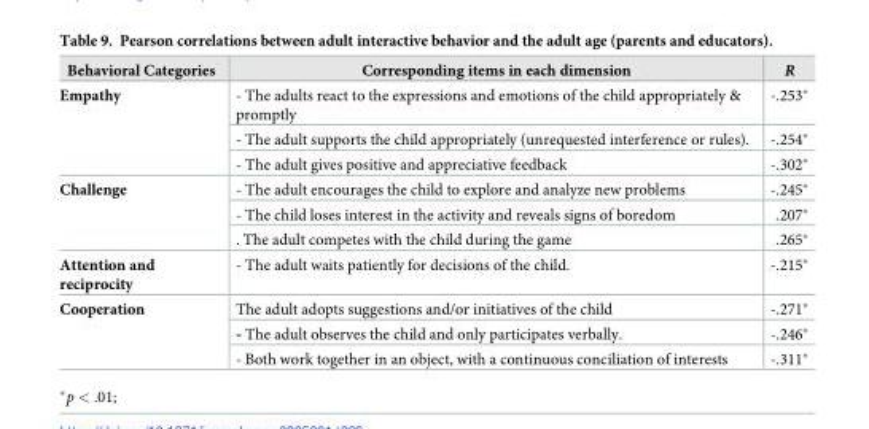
<table><thead><tr><td>Behavioral Categories</td><td>Corresponding items in each dimension</td><td>R</td></tr></thead><tbody><tr><td rowspan="3">Empathy</td><td>- The adults react to the expressions and emotions of the child appropriately &amp; promptly</td><td>-.253*</td></tr><tr><td>- The adult supports the child appropriately (unrequested interference or rules).</td><td>-.254*</td></tr><tr><td>- The adult gives positive and appreciative feedback</td><td>-.302*</td></tr><tr><td rowspan="3">Challenge</td><td>- The adult encourages the child to explore and analyze new problems</td><td>-.245*</td></tr><tr><td>- The child loses interest in the activity and reveals signs of boredom</td><td>.207*</td></tr><tr><td>. The adult competes with the child during the game</td><td>.265*</td></tr><tr><td>Attention and reciprocity</td><td>- The adult waits patiently for decisions of the child.</td><td>-.215*</td></tr><tr><td rowspan="3">Cooperation</td><td>The adult adopts suggestions and/or initiatives of the child</td><td>-.271*</td></tr><tr><td>- The adult observes the child and only participates verbally.</td><td>-.246*</td></tr><tr><td>- Both work together in an object, with a continuous conciliation of interests</td><td>-.311*</td></tr></tbody></table>